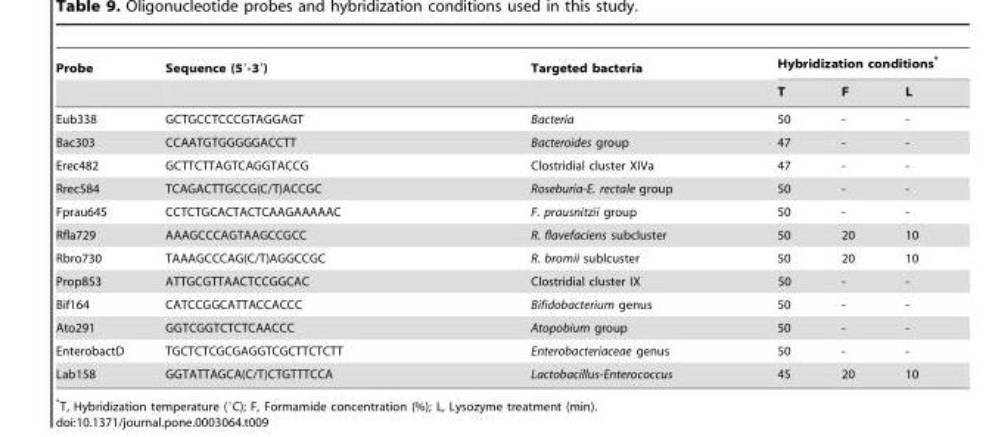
<table><thead><tr><td rowspan="2">Probe</td><td rowspan="2">Sequence (5′-3′)</td><td rowspan="2">Targeted bacteria</td><td colspan="3">Hybridization conditions*</td></tr><tr><td>T</td><td>F</td><td>L</td></tr></thead><tbody><tr><td>Eub338</td><td>GCTGCCTCCCGTAGGAGT</td><td>Bacteria</td><td>50</td><td>-</td><td>-</td></tr><tr><td>Bac303</td><td>CCAATGTGGGGGACCTT</td><td>Bacteroides group</td><td>47</td><td>-</td><td>-</td></tr><tr><td>Erec482</td><td>GCTTCTTAGTCAGGTACCG</td><td>Clostridial cluster XIVa</td><td>47</td><td>-</td><td>-</td></tr><tr><td>Rrec584</td><td>TCAGACTTGCCG(C/T)ACCGC</td><td>Roseburia-E. rectale group</td><td>50</td><td>-</td><td>-</td></tr><tr><td>Fprau645</td><td>CCTCTGCACTACTCAAGAAAAAC</td><td>F. prausnitzii group</td><td>50</td><td>-</td><td>-</td></tr><tr><td>Rfla729</td><td>AAAGCCCAGTAAGCCGCC</td><td>R. flavefaciens subcluster</td><td>50</td><td>20</td><td>10</td></tr><tr><td>Rbro730</td><td>TAAAGCCCAG(C/T)AGGCCGC</td><td>R. bromii sublcuster</td><td>50</td><td>20</td><td>10</td></tr><tr><td>Prop853</td><td>ATTGCGTTAACTCCGGCAC</td><td>Clostridial cluster IX</td><td>50</td><td>-</td><td>-</td></tr><tr><td>Bif164</td><td>CATCCGGCATTACCACCC</td><td>Bifidobacterium genus</td><td>50</td><td>-</td><td>-</td></tr><tr><td>Ato291</td><td>GGTCGGTCTCTCAACCC</td><td>Atopobium group</td><td>50</td><td>-</td><td>-</td></tr><tr><td>EnterobactD</td><td>TGCTCTCGCGAGGTCGCTTCTCTT</td><td>Enterobacteriaceae genus</td><td>50</td><td>-</td><td>-</td></tr><tr><td>Lab158</td><td>GGTATTAGCA(C/T)CTGTTTCCA</td><td>Lactobacillus-Enterococcus</td><td>45</td><td>20</td><td>10</td></tr></tbody></table>